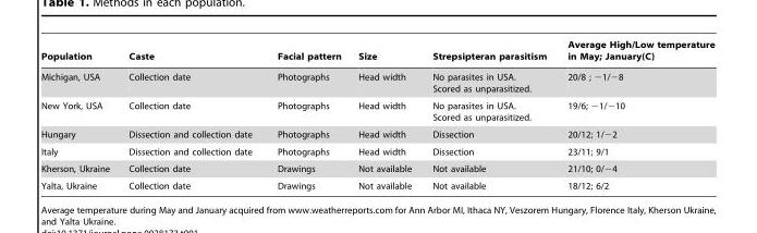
<table><thead><tr><td>Population</td><td>Caste</td><td>Facial pattern</td><td>Size</td><td>Strepsipteran parasitism</td><td>Average High/Low temperature in May; January(C)</td></tr></thead><tbody><tr><td>Michigan, USA</td><td>Collection date</td><td>Photographs</td><td>Head width</td><td>No parasites in USA. Scored as unparasitized.</td><td>20/8 ; −1/−8</td></tr><tr><td>New York, USA</td><td>Collection date</td><td>Photographs</td><td>Head width</td><td>No parasites in USA. Scored as unparasitized.</td><td>19/6; −1/−10</td></tr><tr><td>Hungary</td><td>Dissection and collection date</td><td>Photographs</td><td>Head width</td><td>Dissection</td><td>20/12; 1/−2</td></tr><tr><td>Italy</td><td>Dissection and collection date</td><td>Photographs</td><td>Head width</td><td>Dissection</td><td>23/11; 9/1</td></tr><tr><td>Kherson, Ukraine</td><td>Collection date</td><td>Drawings</td><td>Not available</td><td>Not available</td><td>21/10; 0/−4</td></tr><tr><td>Yalta, Ukraine</td><td>Collection date</td><td>Drawings</td><td>Not available</td><td>Not available</td><td>18/12; 6/2</td></tr></tbody></table>